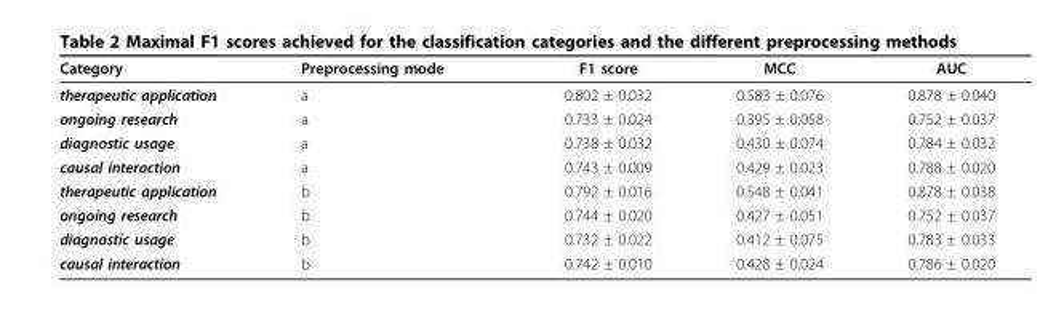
<table><thead><tr><td>Category</td><td>Preprocessing mode</td><td>F1 score</td><td>MCC</td><td>AUC</td></tr></thead><tbody><tr><td>therapeutic application</td><td>a</td><td>0.802 ± 0.032</td><td>0.583 ± 0.076</td><td>0.878 ± 0.040</td></tr><tr><td>ongoing research</td><td>a</td><td>0.733 ± 0.024</td><td>0.395 ± 0.058</td><td>0.752 ± 0.037</td></tr><tr><td>diagnostic usage</td><td>a</td><td>0.738 ± 0.032</td><td>0.430 ± 0.074</td><td>0.784 ± 0.032</td></tr><tr><td>causal interaction</td><td>a</td><td>0.743 ± 0.009</td><td>0.429 ± 0.023</td><td>0.788 ± 0.020</td></tr><tr><td>therapeutic application</td><td>b</td><td>0.792 ± 0.016</td><td>0.548 ± 0.041</td><td>0.878 ± 0.038</td></tr><tr><td>ongoing research</td><td>b</td><td>0.744 ± 0.020</td><td>0.427 ± 0.051</td><td>0.752 ± 0.037</td></tr><tr><td>diagnostic usage</td><td>b</td><td>0.732 ± 0.022</td><td>0.412 ± 0.075</td><td>0.783 ± 0.033</td></tr><tr><td>causal interaction</td><td>b</td><td>0.742 ± 0.010</td><td>0.428 ± 0.024</td><td>0.786 ± 0.020</td></tr></tbody></table>